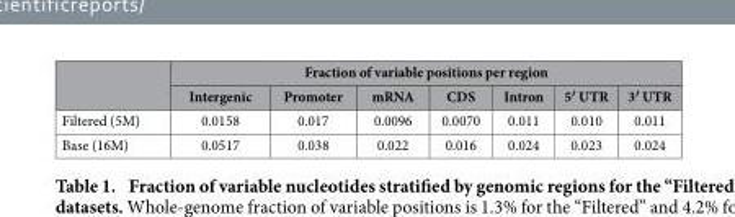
<table><thead><tr><td rowspan="2"></td><td colspan="7">Fraction of variable positions per region</td></tr><tr><td>Intergenic</td><td>Promoter</td><td>mRNA</td><td>CDS</td><td>Intron</td><td>5′ UTR</td><td>3′ UTR</td></tr></thead><tbody><tr><td>Filtered (5M)</td><td>0.0158</td><td>0.017</td><td>0.0096</td><td>0.0070</td><td>0.011</td><td>0.010</td><td>0.011</td></tr><tr><td>Base (16M)</td><td>0.0517</td><td>0.038</td><td>0.022</td><td>0.016</td><td>0.024</td><td>0.023</td><td>0.024</td></tr></tbody></table>